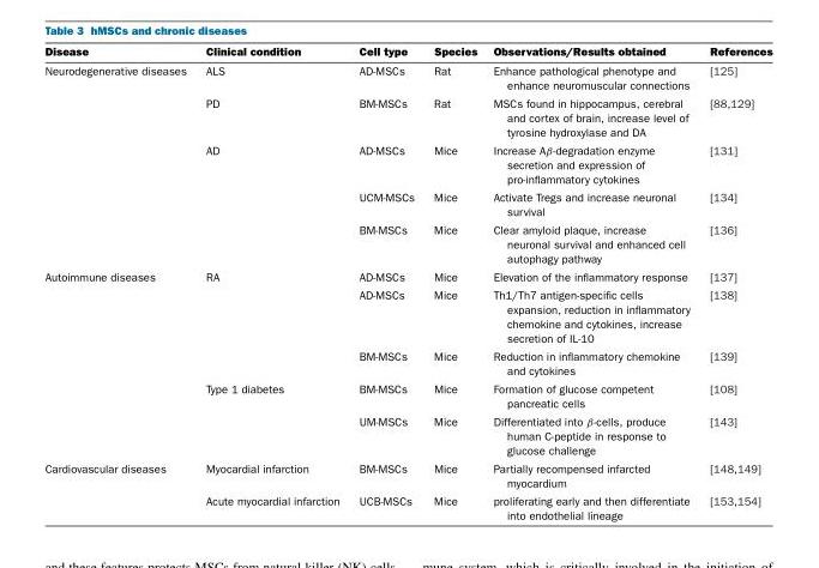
<table><thead><tr><td>Disease</td><td>Clinical condition</td><td>Cell type</td><td>Species</td><td>Observations/Results obtained</td><td>References</td></tr></thead><tbody><tr><td rowspan="5">Neurodegenerative diseases</td><td>ALS</td><td>AD-MSCs</td><td>Rat</td><td>Enhance pathological phenotype and enhance neuromuscular connections</td><td>[125]</td></tr><tr><td>PD</td><td>BM-MSCs</td><td>Rat</td><td>MSCs found in hippocampus, cerebral and cortex of brain, increase level of tyrosine hydroxylase and DA</td><td>[88,129]</td></tr><tr><td>AD</td><td>AD-MSCs</td><td>Mice</td><td>Increase Aβ-degradation enzyme secretion and expression of pro-inflammatory cytokines</td><td>[131]</td></tr><tr><td></td><td>UCM-MSCs</td><td>Mice</td><td>Activate Tregs and increase neuronal survival</td><td>[134]</td></tr><tr><td></td><td>BM-MSCs</td><td>Mice</td><td>Clear amyloid plaque, increase neuronal survival and enhanced cell autophagy pathway</td><td>[136]</td></tr><tr><td rowspan="5">Autoimmune diseases</td><td>RA</td><td>AD-MSCs</td><td>Mice</td><td>Elevation of the inflammatory response</td><td>[137]</td></tr><tr><td></td><td>AD-MSCs</td><td>Mice</td><td>Th1/Th7 antigen-specific cells expansion, reduction in inflammatory chemokine and cytokines, increase secretion of IL-10</td><td>[138]</td></tr><tr><td></td><td>BM-MSCs</td><td>Mice</td><td>Reduction in inflammatory chemokine and cytokines</td><td>[139]</td></tr><tr><td>Type 1 diabetes</td><td>BM-MSCs</td><td>Mice</td><td>Formation of glucose competent pancreatic cells</td><td>[108]</td></tr><tr><td></td><td>UM-MSCs</td><td>Mice</td><td>Differentiated into β-cells, produce human C-peptide in response to glucose challenge</td><td>[143]</td></tr><tr><td rowspan="2">Cardiovascular diseases</td><td>Myocardial infarction</td><td>BM-MSCs</td><td>Mice</td><td>Partially recompensed infarcted myocardium</td><td>[148,149]</td></tr><tr><td>Acute myocardial infarction</td><td>UCB-MSCs</td><td>Mice</td><td>proliferating early and then differentiate into endothelial lineage</td><td>[153,154]</td></tr></tbody></table>